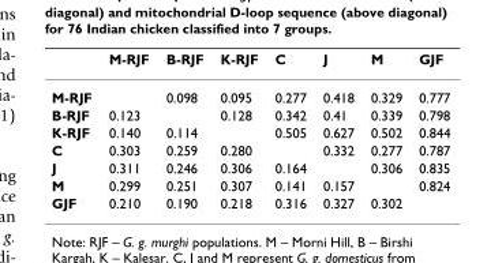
<table><thead><tr><td></td><td>M-RJF</td><td>B-RJF</td><td>K-RJF</td><td>C</td><td>J</td><td>M</td><td>GJF</td></tr></thead><tbody><tr><td>M-RJF</td><td></td><td>0.098</td><td>0.095</td><td>0.277</td><td>0.418</td><td>0.329</td><td>0.777</td></tr><tr><td>B-RJF</td><td>0.123</td><td></td><td>0.128</td><td>0.342</td><td>0.41</td><td>0.339</td><td>0.798</td></tr><tr><td>K-RJF</td><td>0.140</td><td>0.114</td><td></td><td>0.505</td><td>0.627</td><td>0.502</td><td>0.844</td></tr><tr><td>C</td><td>0.303</td><td>0.259</td><td>0.280</td><td></td><td>0.332</td><td>0.277</td><td>0.787</td></tr><tr><td>J</td><td>0.311</td><td>0.246</td><td>0.306</td><td>0.164</td><td></td><td>0.306</td><td>0.835</td></tr><tr><td>M</td><td>0.299</td><td>0.251</td><td>0.307</td><td>0.141</td><td>0.157</td><td></td><td>0.824</td></tr><tr><td>GJF</td><td>0.210</td><td>0.190</td><td>0.218</td><td>0.316</td><td>0.327</td><td>0.302</td><td></td></tr></tbody></table>